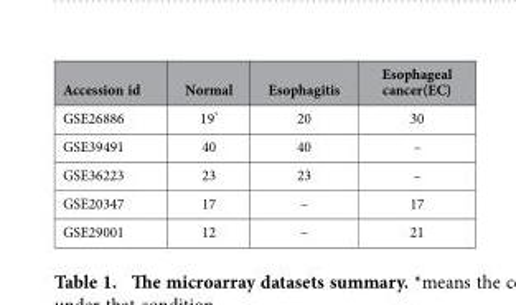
<table><thead><tr><td>Accession id</td><td>Normal</td><td>Esophagitis</td><td>Esophageal cancer(EC)</td></tr></thead><tbody><tr><td>GSE26886</td><td>19*</td><td>20</td><td>30</td></tr><tr><td>GSE39491</td><td>40</td><td>40</td><td>–</td></tr><tr><td>GSE36223</td><td>23</td><td>23</td><td>–</td></tr><tr><td>GSE20347</td><td>17</td><td>–</td><td>17</td></tr><tr><td>GSE29001</td><td>12</td><td>–</td><td>21</td></tr></tbody></table>